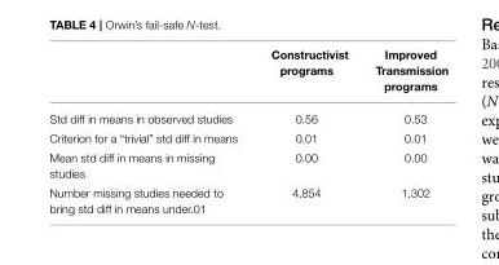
<table><thead><tr><td></td><td>Constructivist programs</td><td>Improved Transmission programs</td></tr></thead><tbody><tr><td>Std diff in means in observed studies</td><td>0.56</td><td>0.53</td></tr><tr><td>Criterion for a “trivial” std diff in means</td><td>0.01</td><td>0.01</td></tr><tr><td>Mean std diff in means in missing studies</td><td>0.00</td><td>0.00</td></tr><tr><td>Number missing studies needed to bring std diff in means under.01</td><td>4,854</td><td>1,302</td></tr></tbody></table>